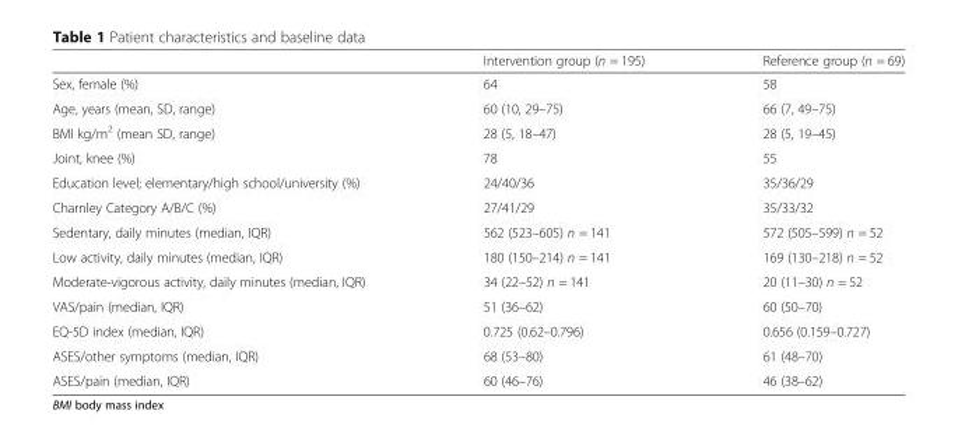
<table><thead><tr><td></td><td>Intervention group (n = 195)</td><td>Reference group (n = 69)</td></tr></thead><tbody><tr><td>Sex, female (%)</td><td>64</td><td>58</td></tr><tr><td>Age, years (mean, SD, range)</td><td>60 (10, 29–75)</td><td>66 (7, 49–75)</td></tr><tr><td>BMI kg/m<sup>2</sup> (mean SD, range)</td><td>28 (5, 18–47)</td><td>28 (5, 19–45)</td></tr><tr><td>Joint, knee (%)</td><td>78</td><td>55</td></tr><tr><td>Education level; elementary/high school/university (%)</td><td>24/40/36</td><td>35/36/29</td></tr><tr><td>Charnley Category A/B/C (%)</td><td>27/41/29</td><td>35/33/32</td></tr><tr><td>Sedentary, daily minutes (median, IQR)</td><td>562 (523–605) n = 141</td><td>572 (505–599) n = 52</td></tr><tr><td>Low activity, daily minutes (median, IQR)</td><td>180 (150–214) n = 141</td><td>169 (130–218) n = 52</td></tr><tr><td>Moderate-vigorous activity, daily minutes (median, IQR)</td><td>34 (22–52) n = 141</td><td>20 (11–30) n = 52</td></tr><tr><td>VAS/pain (median, IQR)</td><td>51 (36–62)</td><td>60 (50–70)</td></tr><tr><td>EQ-5D index (median, IQR)</td><td>0.725 (0.62–0.796)</td><td>0.656 (0.159–0.727)</td></tr><tr><td>ASES/other symptoms (median, IQR)</td><td>68 (53–80)</td><td>61 (48–70)</td></tr><tr><td>ASES/pain (median, IQR)</td><td>60 (46–76)</td><td>46 (38–62)</td></tr></tbody></table>